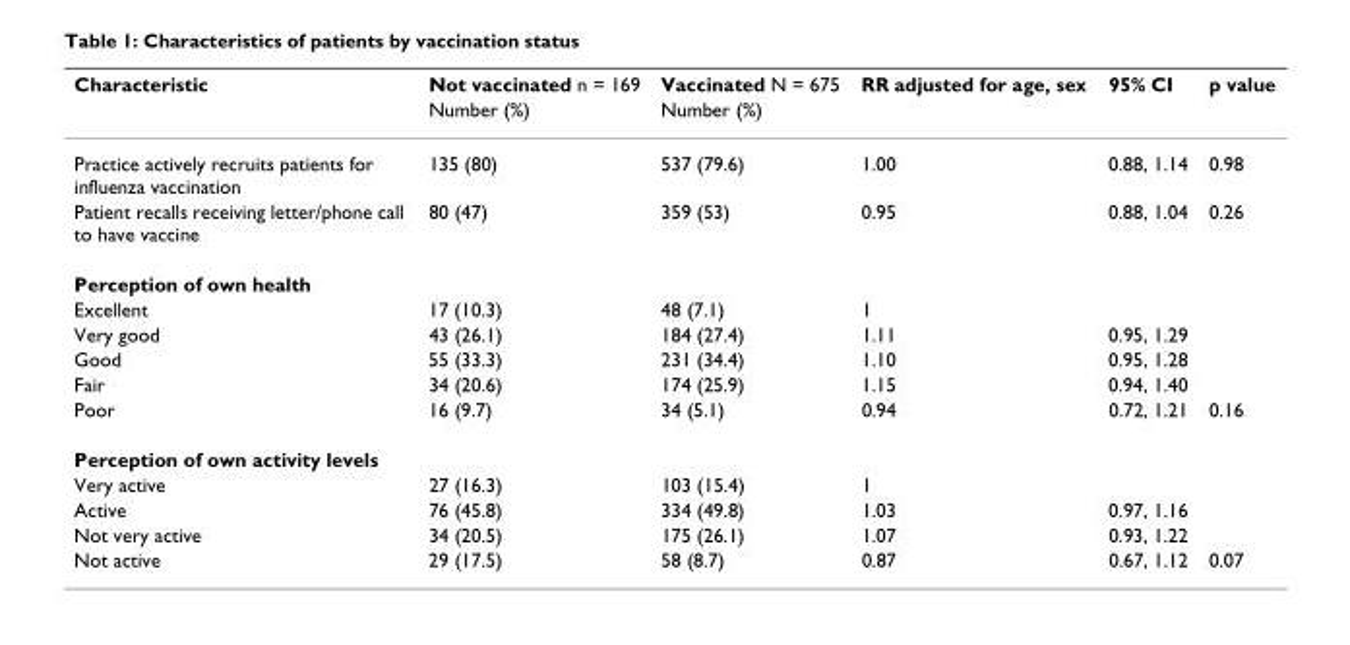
<table><thead><tr><td rowspan="2">Characteristic</td><td rowspan="2">Not vaccinated n = 169 Number (%)</td><td rowspan="2">Vaccinated N = 675 Number (%)</td><td rowspan="2">RR adjusted for age, sex</td><td rowspan="2">95% CI</td><td rowspan="2">p value</td></tr><tr></tr></thead><tbody><tr><td>Practice actively recruits patients for influenza vaccination</td><td>135 (80)</td><td>537 (79.6)</td><td>1.00</td><td>0.88, 1.14</td><td>0.98</td></tr><tr><td>Patient recalls receiving letter/phone call to have vaccine</td><td>80 (47)</td><td>359 (53)</td><td>0.95</td><td>0.88, 1.04</td><td>0.26</td></tr><tr><td colspan="6">Perception of own health</td></tr><tr><td>Excellent</td><td>17 (10.3)</td><td>48 (7.1)</td><td>1</td><td></td><td></td></tr><tr><td>Very good</td><td>43 (26.1)</td><td>184 (27.4)</td><td>1.11</td><td>0.95, 1.29</td><td></td></tr><tr><td>Good</td><td>55 (33.3)</td><td>231 (34.4)</td><td>1.10</td><td>0.95, 1.28</td><td></td></tr><tr><td>Fair</td><td>34 (20.6)</td><td>174 (25.9)</td><td>1.15</td><td>0.94, 1.40</td><td></td></tr><tr><td>Poor</td><td>16 (9.7)</td><td>34 (5.1)</td><td>0.94</td><td>0.72, 1.21</td><td>0.16</td></tr><tr><td colspan="6">Perception of own activity levels</td></tr><tr><td>Very active</td><td>27 (16.3)</td><td>103 (15.4)</td><td>1</td><td></td><td></td></tr><tr><td>Active</td><td>76 (45.8)</td><td>334 (49.8)</td><td>1.03</td><td>0.97, 1.16</td><td></td></tr><tr><td>Not very active</td><td>34 (20.5)</td><td>175 (26.1)</td><td>1.07</td><td>0.93, 1.22</td><td></td></tr><tr><td>Not active</td><td>29 (17.5)</td><td>58 (8.7)</td><td>0.87</td><td>0.67, 1.12</td><td>0.07</td></tr></tbody></table>